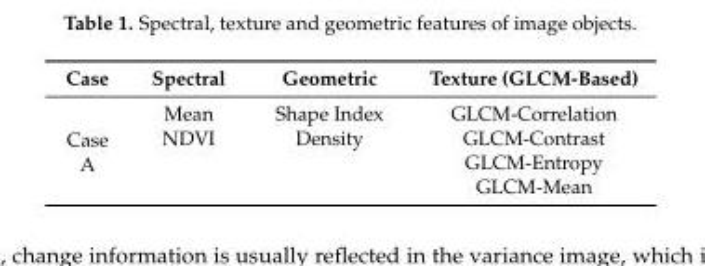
<table><thead><tr><td>Case</td><td>Spectral</td><td>Geometric</td><td>Texture (GLCM-Based)</td></tr></thead><tbody><tr><td rowspan="4">Case A</td><td>Mean</td><td>Shape Index</td><td>GLCM-Correlation</td></tr><tr><td>NDVI</td><td>Density</td><td>GLCM-Contrast</td></tr><tr><td></td><td></td><td>GLCM-Entropy</td></tr><tr><td></td><td></td><td>GLCM-Mean</td></tr></tbody></table>